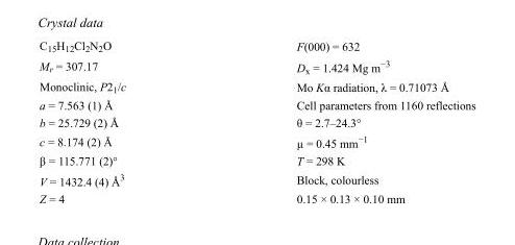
<table><tbody><tr><td>C<sub>15</sub>H<sub>12</sub>Cl<sub>2</sub>N<sub>2</sub>O</td><td>F(000) = 632</td></tr><tr><td>M<sub>r</sub> = 307.17</td><td>D<sub>x</sub> = 1.424 Mg m<sup>−3</sup></td></tr><tr><td>Monoclinic, P2<sub>1</sub>/c</td><td>Mo Kα radiation, λ = 0.71073 Å</td></tr><tr><td>a = 7.563 (1) Å</td><td>Cell parameters from 1160 reflections</td></tr><tr><td>b = 25.729 (2) Å</td><td>θ = 2.7–24.3°</td></tr><tr><td>c = 8.174 (2) Å</td><td>µ = 0.45 mm<sup>−1</sup></td></tr><tr><td>β = 115.771 (2)°</td><td>T = 298 K</td></tr><tr><td>V = 1432.4 (4) Å<sup>3</sup></td><td>Block, colourless</td></tr><tr><td>Z = 4</td><td>0.15 × 0.13 × 0.10 mm</td></tr></tbody></table>